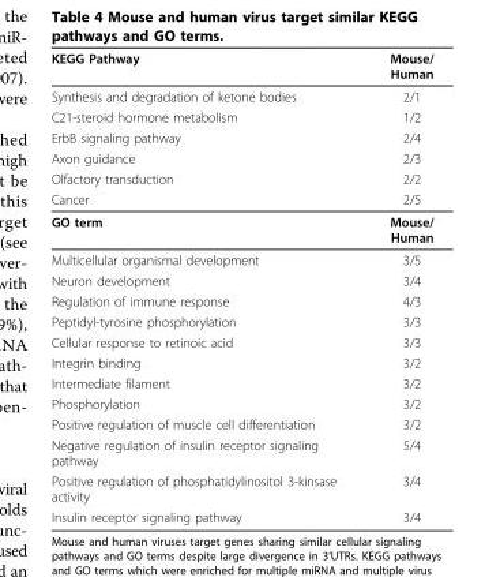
<table><thead><tr><td>KEGG Pathway</td><td>Mouse/ Human</td></tr></thead><tbody><tr><td>Synthesis and degradation of ketone bodies</td><td>2/1</td></tr><tr><td>C21-steroid hormone metabolism</td><td>1/2</td></tr><tr><td>ErbB signaling pathway</td><td>2/4</td></tr><tr><td>Axon guidance</td><td>2/3</td></tr><tr><td>Olfactory transduction</td><td>2/2</td></tr><tr><td>Cancer</td><td>2/5</td></tr><tr><td>GO term</td><td>Mouse/ Human</td></tr><tr><td>Multicellular organismal development</td><td>3/5</td></tr><tr><td>Neuron development</td><td>3/4</td></tr><tr><td>Regulation of immune response</td><td>4/3</td></tr><tr><td>Peptidyl-tyrosine phosphorylation</td><td>3/3</td></tr><tr><td>Cellular response to retinoic acid</td><td>3/3</td></tr><tr><td>Integrin binding</td><td>3/2</td></tr><tr><td>Intermediate filament</td><td>3/2</td></tr><tr><td>Phosphorylation</td><td>3/2</td></tr><tr><td>Positive regulation of muscle cell differentiation</td><td>3/2</td></tr><tr><td>Negative regulation of insulin receptor signaling pathway</td><td>5/4</td></tr><tr><td>Positive regulation of phosphatidylinositol 3-kinsase activity</td><td>3/4</td></tr><tr><td>Insulin receptor signaling pathway</td><td>3/4</td></tr></tbody></table>